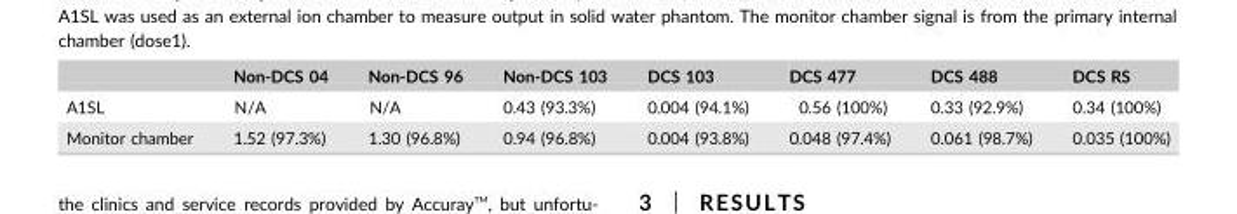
<table><thead><tr><td></td><td>Non-DCS 04</td><td>Non-DCS 96</td><td>Non-DCS 103</td><td>DCS 103</td><td>DCS 477</td><td>DCS 488</td><td>DCS RS</td></tr></thead><tbody><tr><td>A1SL</td><td>N/A</td><td>N/A</td><td>0.43 (93.3%)</td><td>0.004 (94.1%)</td><td>0.56 (100%)</td><td>0.33 (92.9%)</td><td>0.34 (100%)</td></tr><tr><td>Monitor chamber</td><td>1.52 (97.3%)</td><td>1.30 (96.8%)</td><td>0.94 (96.8%)</td><td>0.004 (93.8%)</td><td>0.048 (97.4%)</td><td>0.061 (98.7%)</td><td>0.035 (100%)</td></tr></tbody></table>